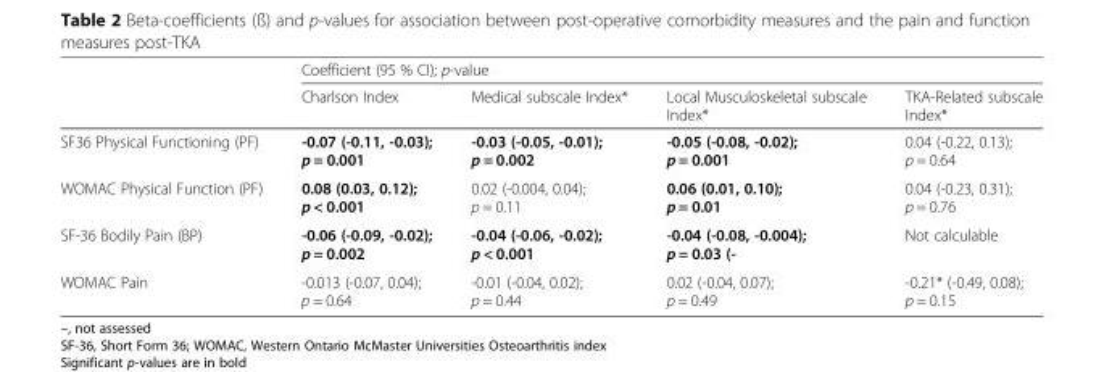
<table><thead><tr><td rowspan="2"></td><td colspan="4">Coefficient (95 % CI); p-value</td></tr><tr><td>Charlson Index</td><td>Medical subscale Index*</td><td>Local Musculoskeletal subscale Index*</td><td>TKA-Related subscale Index*</td></tr></thead><tbody><tr><td>SF36 Physical Functioning (PF)</td><td>-0.07 (-0.11, -0.03); p = 0.001</td><td>-0.03 (-0.05, -0.01); p = 0.002</td><td>-0.05 (-0.08, -0.02); p = 0.001</td><td>0.04 (-0.22, 0.13); p = 0.64</td></tr><tr><td>WOMAC Physical Function (PF)</td><td>0.08 (0.03, 0.12); p &lt; 0.001</td><td>0.02 (-0.004, 0.04); p = 0.11</td><td>0.06 (0.01, 0.10); p = 0.01</td><td>0.04 (-0.23, 0.31); p = 0.76</td></tr><tr><td>SF-36 Bodily Pain (BP)</td><td>-0.06 (-0.09, -0.02); p = 0.002</td><td>-0.04 (-0.06, -0.02); p &lt; 0.001</td><td>-0.04 (-0.08, -0.004); p = 0.03 (-</td><td>Not calculable</td></tr><tr><td>WOMAC Pain</td><td>-0.013 (-0.07, 0.04); p = 0.64</td><td>-0.01 (-0.04, 0.02); p = 0.44</td><td>0.02 (-0.04, 0.07); p = 0.49</td><td>-0.21* (-0.49, 0.08); p = 0.15</td></tr></tbody></table>